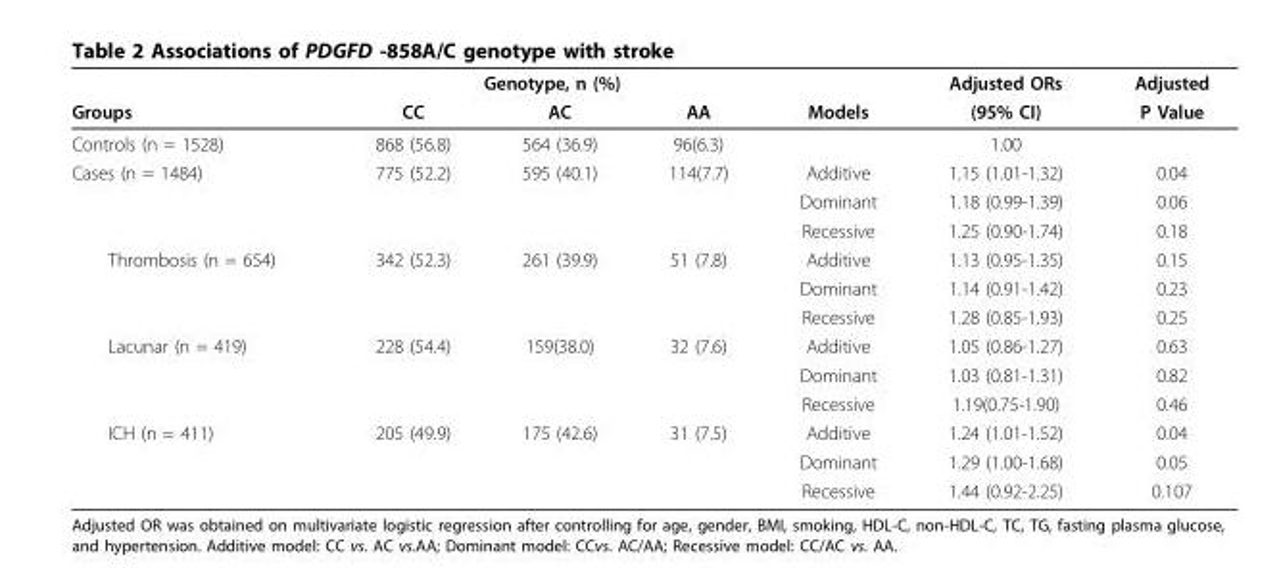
<table><thead><tr><td rowspan="2">Groups</td><td colspan="3">Genotype, n (%)</td><td rowspan="2">Models</td><td rowspan="2">Adjusted ORs (95% CI)</td><td rowspan="2">Adjusted P Value</td></tr><tr><td>CC</td><td>AC</td><td>AA</td></tr></thead><tbody><tr><td>Controls (n = 1528)</td><td>868 (56.8)</td><td>564 (36.9)</td><td>96(6.3)</td><td></td><td>1.00</td><td></td></tr><tr><td rowspan="3">Cases (n = 1484)</td><td>775 (52.2)</td><td>595 (40.1)</td><td>114(7.7)</td><td>Additive</td><td>1.15 (1.01-1.32)</td><td>0.04</td></tr><tr><td></td><td></td><td></td><td>Dominant</td><td>1.18 (0.99-1.39)</td><td>0.06</td></tr><tr><td></td><td></td><td></td><td>Recessive</td><td>1.25 (0.90-1.74)</td><td>0.18</td></tr><tr><td rowspan="3">Thrombosis (n = 654)</td><td>342 (52.3)</td><td>261 (39.9)</td><td>51 (7.8)</td><td>Additive</td><td>1.13 (0.95-1.35)</td><td>0.15</td></tr><tr><td></td><td></td><td></td><td>Dominant</td><td>1.14 (0.91-1.42)</td><td>0.23</td></tr><tr><td></td><td></td><td></td><td>Recessive</td><td>1.28 (0.85-1.93)</td><td>0.25</td></tr><tr><td rowspan="3">Lacunar (n = 419)</td><td>228 (54.4)</td><td>159(38.0)</td><td>32 (7.6)</td><td>Additive</td><td>1.05 (0.86-1.27)</td><td>0.63</td></tr><tr><td></td><td></td><td></td><td>Dominant</td><td>1.03 (0.81-1.31)</td><td>0.82</td></tr><tr><td></td><td></td><td></td><td>Recessive</td><td>1.19(0.75-1.90)</td><td>0.46</td></tr><tr><td rowspan="3">ICH (n = 411)</td><td>205 (49.9)</td><td>175 (42.6)</td><td>31 (7.5)</td><td>Additive</td><td>1.24 (1.01-1.52)</td><td>0.04</td></tr><tr><td></td><td></td><td></td><td>Dominant</td><td>1.29 (1.00-1.68)</td><td>0.05</td></tr><tr><td></td><td></td><td></td><td>Recessive</td><td>1.44 (0.92-2.25)</td><td>0.107</td></tr></tbody></table>